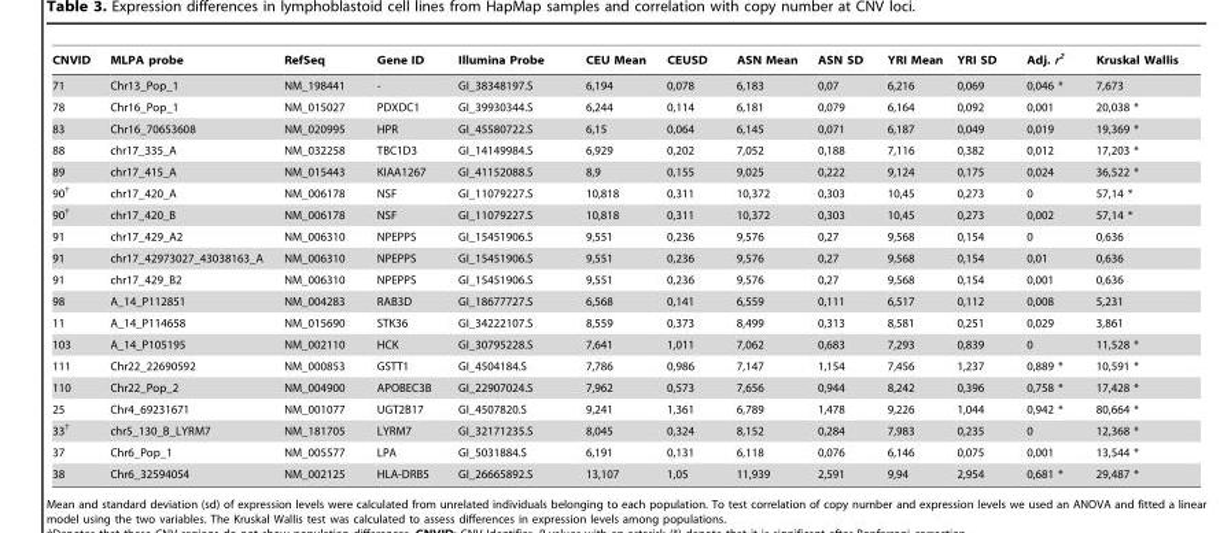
<table><thead><tr><td>CNVID</td><td>MLPA probe</td><td>RefSeq</td><td>Gene ID</td><td>Illumina Probe</td><td>CEU Mean</td><td>CEUSD</td><td>ASN Mean</td><td>ASN SD</td><td>YRI Mean</td><td>YRI SD</td><td>Adj. r<sup>2</sup></td><td>Kruskal Wallis</td></tr></thead><tbody><tr><td>71</td><td>Chr13_Pop_1</td><td>NM_198441</td><td>-</td><td>GI_38348197.S</td><td>6,194</td><td>0,078</td><td>6,183</td><td>0,07</td><td>6,216</td><td>0,069</td><td>0,046 *</td><td>7,673</td></tr><tr><td>78</td><td>Chr16_Pop_1</td><td>NM_015027</td><td>PDXDC1</td><td>GI_39930344.S</td><td>6,244</td><td>0,114</td><td>6,181</td><td>0,079</td><td>6,164</td><td>0,092</td><td>0,001</td><td>20,038 *</td></tr><tr><td>83</td><td>Chr16_70653608</td><td>NM_020995</td><td>HPR</td><td>GI_45580722.S</td><td>6,15</td><td>0,064</td><td>6,145</td><td>0,071</td><td>6,187</td><td>0,049</td><td>0,019</td><td>19,369 *</td></tr><tr><td>88</td><td>chr17_335_A</td><td>NM_032258</td><td>TBC1D3</td><td>GI_14149984.S</td><td>6,929</td><td>0,202</td><td>7,052</td><td>0,188</td><td>7,116</td><td>0,382</td><td>0,012</td><td>17,203 *</td></tr><tr><td>89</td><td>chr17_415_A</td><td>NM_015443</td><td>KIAA1267</td><td>GI_41152088.S</td><td>8,9</td><td>0,155</td><td>9,025</td><td>0,222</td><td>9,124</td><td>0,175</td><td>0,024</td><td>36,522 *</td></tr><tr><td>90†</td><td>chr17_420_A</td><td>NM_006178</td><td>NSF</td><td>GI_11079227.S</td><td>10,818</td><td>0,311</td><td>10,372</td><td>0,303</td><td>10,45</td><td>0,273</td><td>0</td><td>57,14 *</td></tr><tr><td>90†</td><td>chr17_420_B</td><td>NM_006178</td><td>NSF</td><td>GI_11079227.S</td><td>10,818</td><td>0,311</td><td>10,372</td><td>0,303</td><td>10,45</td><td>0,273</td><td>0,002</td><td>57,14 *</td></tr><tr><td>91</td><td>chr17_429_A2</td><td>NM_006310</td><td>NPEPPS</td><td>GI_15451906.S</td><td>9,551</td><td>0,236</td><td>9,576</td><td>0,27</td><td>9,568</td><td>0,154</td><td>0</td><td>0,636</td></tr><tr><td>91</td><td>chr17_42973027_43038163_A</td><td>NM_006310</td><td>NPEPPS</td><td>GI_15451906.S</td><td>9,551</td><td>0,236</td><td>9,576</td><td>0,27</td><td>9,568</td><td>0,154</td><td>0,01</td><td>0,636</td></tr><tr><td>91</td><td>chr17_429_B2</td><td>NM_006310</td><td>NPEPPS</td><td>GI_15451906.S</td><td>9,551</td><td>0,236</td><td>9,576</td><td>0,27</td><td>9,568</td><td>0,154</td><td>0,001</td><td>0,636</td></tr><tr><td>98</td><td>A_14_P112851</td><td>NM_004283</td><td>RAB3D</td><td>GI_18677727.S</td><td>6,568</td><td>0,141</td><td>6,559</td><td>0,111</td><td>6,517</td><td>0,112</td><td>0,008</td><td>5,231</td></tr><tr><td>11</td><td>A_14_P114658</td><td>NM_015690</td><td>STK36</td><td>GI_34222107.S</td><td>8,559</td><td>0,373</td><td>8,499</td><td>0,313</td><td>8,581</td><td>0,251</td><td>0,029</td><td>3,861</td></tr><tr><td>103</td><td>A_14_P105195</td><td>NM_002110</td><td>HCK</td><td>GI_30795228.S</td><td>7,641</td><td>1,011</td><td>7,062</td><td>0,683</td><td>7,293</td><td>0,839</td><td>0</td><td>11,528 *</td></tr><tr><td>111</td><td>Chr22_22690592</td><td>NM_000853</td><td>GSTT1</td><td>GI_4504184.S</td><td>7,786</td><td>0,986</td><td>7,147</td><td>1,154</td><td>7,456</td><td>1,237</td><td>0,889 *</td><td>10,591 *</td></tr><tr><td>110</td><td>Chr22_Pop_2</td><td>NM_004900</td><td>APOBEC3B</td><td>GI_22907024.S</td><td>7,962</td><td>0,573</td><td>7,656</td><td>0,944</td><td>8,242</td><td>0,396</td><td>0,758 *</td><td>17,428 *</td></tr><tr><td>25</td><td>Chr4_69231671</td><td>NM_001077</td><td>UGT2B17</td><td>GI_4507820.S</td><td>9,241</td><td>1,361</td><td>6,789</td><td>1,478</td><td>9,226</td><td>1,044</td><td>0,942 *</td><td>80,664 *</td></tr><tr><td>33†</td><td>chr5_130_B_LYRM7</td><td>NM_181705</td><td>LYRM7</td><td>GI_32171235.S</td><td>8,045</td><td>0,324</td><td>8,152</td><td>0,284</td><td>7,983</td><td>0,235</td><td>0</td><td>12,368 *</td></tr><tr><td>37</td><td>Chr6_Pop_1</td><td>NM_005577</td><td>LPA</td><td>GI_5031884.S</td><td>6,191</td><td>0,131</td><td>6,118</td><td>0,076</td><td>6,146</td><td>0,075</td><td>0,001</td><td>13,544 *</td></tr><tr><td>38</td><td>Chr6_32594054</td><td>NM_002125</td><td>HLA-DRB5</td><td>GI_26665892.S</td><td>13,107</td><td>1,05</td><td>11,939</td><td>2,591</td><td>9,94</td><td>2,954</td><td>0,681 *</td><td>29,487 *</td></tr></tbody></table>